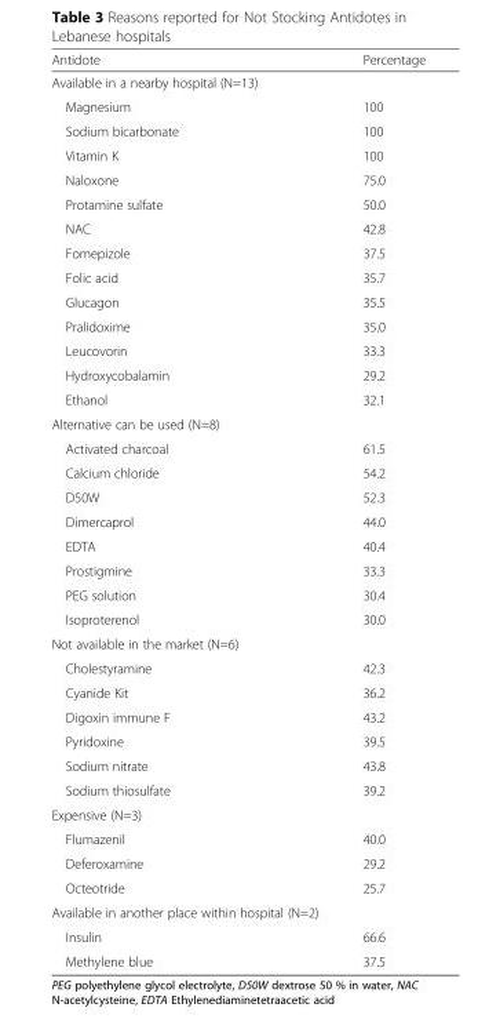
<table><thead><tr><td>Antidote</td><td>Percentage</td></tr></thead><tbody><tr><td colspan="2">Available in a nearby hospital (N=13)</td></tr><tr><td>Magnesium</td><td>100</td></tr><tr><td>Sodium bicarbonate</td><td>100</td></tr><tr><td>Vitamin K</td><td>100</td></tr><tr><td>Naloxone</td><td>75.0</td></tr><tr><td>Protamine sulfate</td><td>50.0</td></tr><tr><td>NAC</td><td>42.8</td></tr><tr><td>Fomepizole</td><td>37.5</td></tr><tr><td>Folic acid</td><td>35.7</td></tr><tr><td>Glucagon</td><td>35.5</td></tr><tr><td>Pralidoxime</td><td>35.0</td></tr><tr><td>Leucovorin</td><td>33.3</td></tr><tr><td>Hydroxycobalamin</td><td>29.2</td></tr><tr><td>Ethanol</td><td>32.1</td></tr><tr><td colspan="2">Alternative can be used (N=8)</td></tr><tr><td>Activated charcoal</td><td>61.5</td></tr><tr><td>Calcium chloride</td><td>54.2</td></tr><tr><td>D50W</td><td>52.3</td></tr><tr><td>Dimercaprol</td><td>44.0</td></tr><tr><td>EDTA</td><td>40.4</td></tr><tr><td>Prostigmine</td><td>33.3</td></tr><tr><td>PEG solution</td><td>30.4</td></tr><tr><td>Isoproterenol</td><td>30.0</td></tr><tr><td colspan="2">Not available in the market (N=6)</td></tr><tr><td>Cholestyramine</td><td>42.3</td></tr><tr><td>Cyanide Kit</td><td>36.2</td></tr><tr><td>Digoxin immune F</td><td>43.2</td></tr><tr><td>Pyridoxine</td><td>39.5</td></tr><tr><td>Sodium nitrate</td><td>43.8</td></tr><tr><td>Sodium thiosulfate</td><td>39.2</td></tr><tr><td colspan="2">Expensive (N=3)</td></tr><tr><td>Flumazenil</td><td>40.0</td></tr><tr><td>Deferoxamine</td><td>29.2</td></tr><tr><td>Octeotride</td><td>25.7</td></tr><tr><td colspan="2">Available in another place within hospital (N=2)</td></tr><tr><td>Insulin</td><td>66.6</td></tr><tr><td>Methylene blue</td><td>37.5</td></tr></tbody></table>